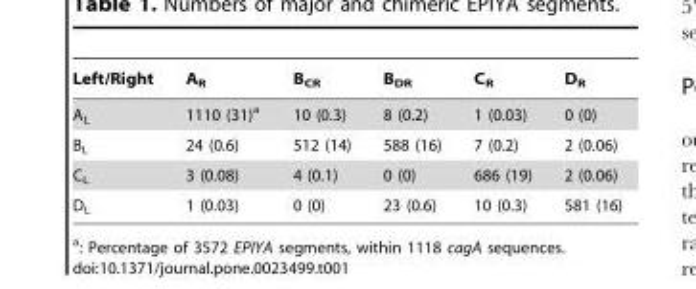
<table><thead><tr><td>Left/Right</td><td>A<sub>R</sub></td><td>B<sub>CR</sub></td><td>B<sub>DR</sub></td><td>C<sub>R</sub></td><td>D<sub>R</sub></td></tr></thead><tbody><tr><td>A<sub>L</sub></td><td>1110 (31)<sup>a</sup></td><td>10 (0.3)</td><td>8 (0.2)</td><td>1 (0.03)</td><td>0 (0)</td></tr><tr><td>B<sub>L</sub></td><td>24 (0.6)</td><td>512 (14)</td><td>588 (16)</td><td>7 (0.2)</td><td>2 (0.06)</td></tr><tr><td>C<sub>L</sub></td><td>3 (0.08)</td><td>4 (0.1)</td><td>0 (0)</td><td>686 (19)</td><td>2 (0.06)</td></tr><tr><td>D<sub>L</sub></td><td>1 (0.03)</td><td>0 (0)</td><td>23 (0.6)</td><td>10 (0.3)</td><td>581 (16)</td></tr></tbody></table>